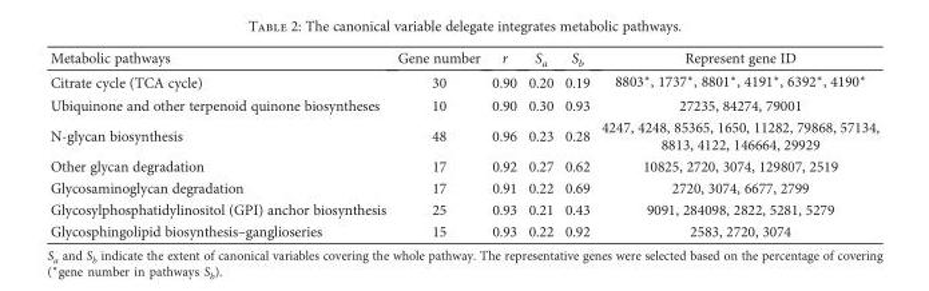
<table><thead><tr><td>Metabolic pathways</td><td>Gene number</td><td>r</td><td>S<sub>a</sub></td><td>S<sub>b</sub></td><td>Represent gene ID</td></tr></thead><tbody><tr><td>Citrate cycle (TCA cycle)</td><td>30</td><td>0.90</td><td>0.20</td><td>0.19</td><td>8803∗, 1737∗, 8801∗, 4191∗, 6392∗, 4190∗</td></tr><tr><td>Ubiquinone and other terpenoid quinone biosyntheses</td><td>10</td><td>0.90</td><td>0.30</td><td>0.93</td><td>27235, 84274, 79001</td></tr><tr><td>N-glycan biosynthesis</td><td>48</td><td>0.96</td><td>0.23</td><td>0.28</td><td>4247, 4248, 85365, 1650, 11282, 79868, 57134, 8813, 4122, 146664, 29929</td></tr><tr><td>Other glycan degradation</td><td>17</td><td>0.92</td><td>0.27</td><td>0.62</td><td>10825, 2720, 3074, 129807, 2519</td></tr><tr><td>Glycosaminoglycan degradation</td><td>17</td><td>0.91</td><td>0.22</td><td>0.69</td><td>2720, 3074, 6677, 2799</td></tr><tr><td>Glycosylphosphatidylinositol (GPI) anchor biosynthesis</td><td>25</td><td>0.93</td><td>0.21</td><td>0.43</td><td>9091, 284098, 2822, 5281, 5279</td></tr><tr><td>Glycosphingolipid biosynthesis–ganglioseries</td><td>15</td><td>0.93</td><td>0.22</td><td>0.92</td><td>2583, 2720, 3074</td></tr></tbody></table>